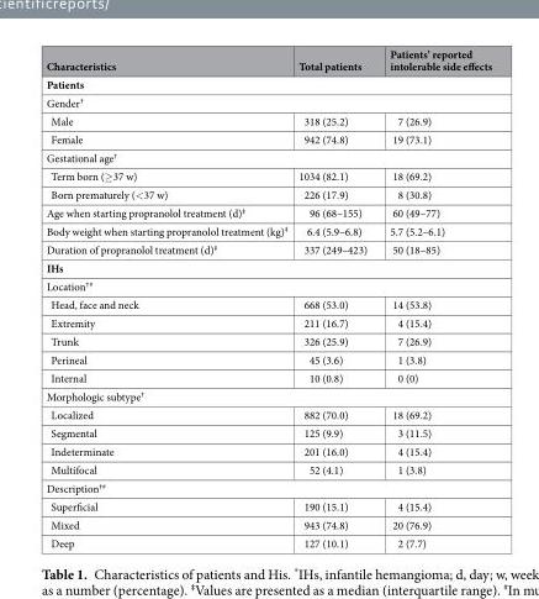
<table><thead><tr><td>Characteristics</td><td>Total patients</td><td>Patients’ reported intolerable side effects</td></tr></thead><tbody><tr><td colspan="3">Patients</td></tr><tr><td colspan="3">Gender<sup>†</sup></td></tr><tr><td>Male</td><td>318 (25.2)</td><td>7 (26.9)</td></tr><tr><td>Female</td><td>942 (74.8)</td><td>19 (73.1)</td></tr><tr><td colspan="3">Gestational age<sup>†</sup></td></tr><tr><td>Term born (≥37 w)</td><td>1034 (82.1)</td><td>18 (69.2)</td></tr><tr><td>Born prematurely (&lt;37 w)</td><td>226 (17.9)</td><td>8 (30.8)</td></tr><tr><td>Age when starting propranolol treatment (d)<sup>‡</sup></td><td>96 (68–155)</td><td>60 (49–77)</td></tr><tr><td>Body weight when starting propranolol treatment (kg)<sup>‡</sup></td><td>6.4 (5.9–6.8)</td><td>5.7 (5.2–6.1)</td></tr><tr><td>Duration of propranolol treatment (d)<sup>‡</sup></td><td>337 (249–423)</td><td>50 (18–85)</td></tr><tr><td colspan="3">IHs</td></tr><tr><td colspan="3">Location<sup>†#</sup></td></tr><tr><td>Head, face and neck</td><td>668 (53.0)</td><td>14 (53.8)</td></tr><tr><td>Extremity</td><td>211 (16.7)</td><td>4 (15.4)</td></tr><tr><td>Trunk</td><td>326 (25.9)</td><td>7 (26.9)</td></tr><tr><td>Perineal</td><td>45 (3.6)</td><td>1 (3.8)</td></tr><tr><td>Internal</td><td>10 (0.8)</td><td>0 (0)</td></tr><tr><td colspan="3">Morphologic subtype<sup>†</sup></td></tr><tr><td>Localized</td><td>882 (70.0)</td><td>18 (69.2)</td></tr><tr><td>Segmental</td><td>125 (9.9)</td><td>3 (11.5)</td></tr><tr><td>Indeterminate</td><td>201 (16.0)</td><td>4 (15.4)</td></tr><tr><td>Multifocal</td><td>52 (4.1)</td><td>1 (3.8)</td></tr><tr><td colspan="3">Description<sup>†#</sup></td></tr><tr><td>Superficial</td><td>190 (15.1)</td><td>4 (15.4)</td></tr><tr><td>Mixed</td><td>943 (74.8)</td><td>20 (76.9)</td></tr><tr><td>Deep</td><td>127 (10.1)</td><td>2 (7.7)</td></tr></tbody></table>